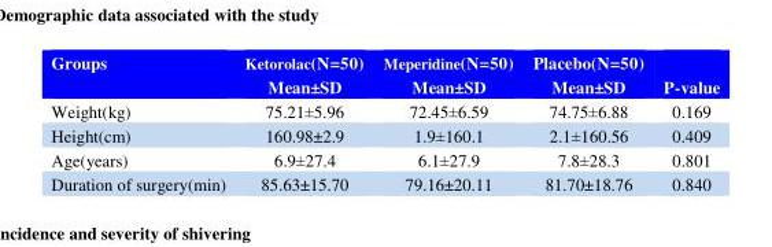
<table><thead><tr><td>Groups</td><td>Ketorolac(N=50) Mean±SD</td><td>Meperidine(N=50) Mean±SD</td><td>Placebo(N=50) Mean±SD</td><td>P-value</td></tr></thead><tbody><tr><td>Weight(kg)</td><td>75.21±5.96</td><td>72.45±6.59</td><td>74.75±6.88</td><td>0.169</td></tr><tr><td>Height(cm)</td><td>160.98±2.9</td><td>1.9±160.1</td><td>2.1±160.56</td><td>0.409</td></tr><tr><td>Age(years)</td><td>6.9±27.4</td><td>6.1±27.9</td><td>7.8±28.3</td><td>0.801</td></tr><tr><td>Duration of surgery(min)</td><td>85.63±15.70</td><td>79.16±20.11</td><td>81.70±18.76</td><td>0.840</td></tr></tbody></table>